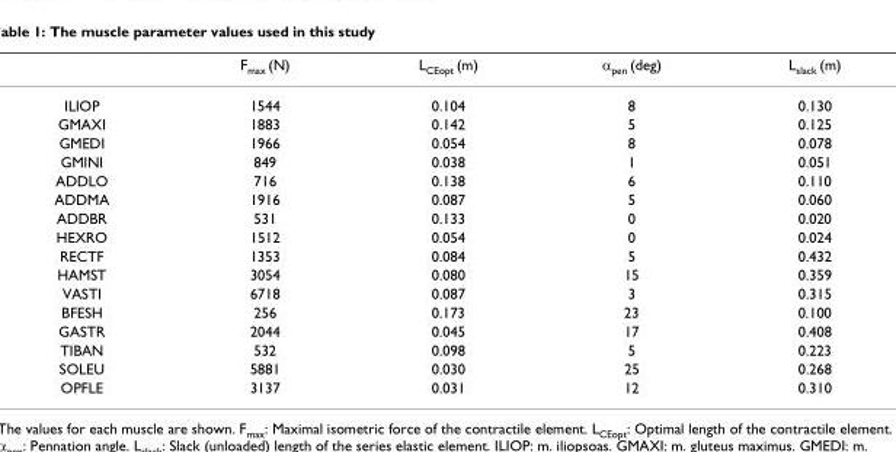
<table><thead><tr><td></td><td>F<sub>max</sub> (N)</td><td>L<sub>CEopt</sub> (m)</td><td>α<sub>pen</sub> (deg)</td><td>L<sub>slack</sub> (m)</td></tr></thead><tbody><tr><td>ILIOP</td><td>1544</td><td>0.104</td><td>8</td><td>0.130</td></tr><tr><td>GMAXI</td><td>1883</td><td>0.142</td><td>5</td><td>0.125</td></tr><tr><td>GMEDI</td><td>1966</td><td>0.054</td><td>8</td><td>0.078</td></tr><tr><td>GMINI</td><td>849</td><td>0.038</td><td>1</td><td>0.051</td></tr><tr><td>ADDLO</td><td>716</td><td>0.138</td><td>6</td><td>0.110</td></tr><tr><td>ADDMA</td><td>1916</td><td>0.087</td><td>5</td><td>0.060</td></tr><tr><td>ADDBR</td><td>531</td><td>0.133</td><td>0</td><td>0.020</td></tr><tr><td>HEXRO</td><td>1512</td><td>0.054</td><td>0</td><td>0.024</td></tr><tr><td>RECTF</td><td>1353</td><td>0.084</td><td>5</td><td>0.432</td></tr><tr><td>HAMST</td><td>3054</td><td>0.080</td><td>15</td><td>0.359</td></tr><tr><td>VASTI</td><td>6718</td><td>0.087</td><td>3</td><td>0.315</td></tr><tr><td>BFESH</td><td>256</td><td>0.173</td><td>23</td><td>0.100</td></tr><tr><td>GASTR</td><td>2044</td><td>0.045</td><td>17</td><td>0.408</td></tr><tr><td>TIBAN</td><td>532</td><td>0.098</td><td>5</td><td>0.223</td></tr><tr><td>SOLEU</td><td>5881</td><td>0.030</td><td>25</td><td>0.268</td></tr><tr><td>OPFLE</td><td>3137</td><td>0.031</td><td>12</td><td>0.310</td></tr></tbody></table>